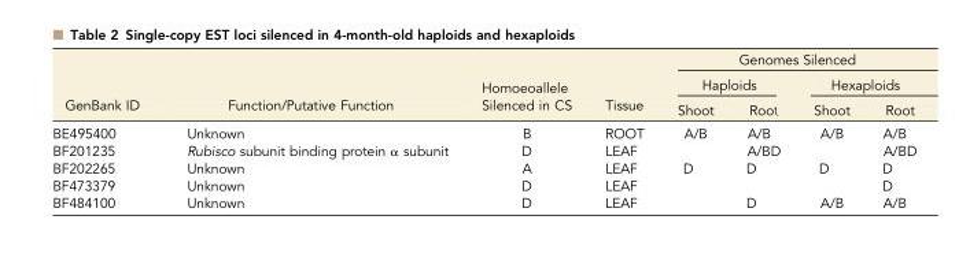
<table><thead><tr><td rowspan="3">GenBank ID</td><td rowspan="3">Function/Putative Function</td><td rowspan="3">Homoeoallele Silenced in CS</td><td rowspan="3">Tissue</td><td colspan="4">Genomes Silenced</td></tr><tr><td colspan="2">Haploids</td><td colspan="2">Hexaploids</td></tr><tr><td>Shoot</td><td>Root</td><td>Shoot</td><td>Root</td></tr></thead><tbody><tr><td>BE495400</td><td>Unknown</td><td>B</td><td>ROOT</td><td>A/B</td><td>A/B</td><td>A/B</td><td>A/B</td></tr><tr><td>BF201235</td><td>Rubisco subunit binding protein α subunit</td><td>D</td><td>LEAF</td><td></td><td>A/BD</td><td></td><td>A/BD</td></tr><tr><td>BF202265</td><td>Unknown</td><td>A</td><td>LEAF</td><td>D</td><td>D</td><td>D</td><td>D</td></tr><tr><td>BF473379</td><td>Unknown</td><td>D</td><td>LEAF</td><td></td><td></td><td></td><td>D</td></tr><tr><td>BF484100</td><td>Unknown</td><td>D</td><td>LEAF</td><td></td><td>D</td><td>A/B</td><td>A/B</td></tr></tbody></table>